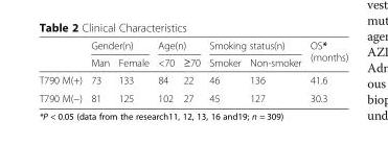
<table><thead><tr><td rowspan="2"></td><td colspan="2">Gender(n)</td><td colspan="2">Age(n)</td><td colspan="2">Smoking status(n)</td><td rowspan="2">OS* (months)</td></tr><tr><td>Man</td><td>Female</td><td>&lt;70</td><td>≥70</td><td>Smoker</td><td>Non-smoker</td></tr></thead><tbody><tr><td>T790 M(+)</td><td>73</td><td>133</td><td>84</td><td>22</td><td>46</td><td>136</td><td>41.6</td></tr><tr><td>T790 M(−)</td><td>81</td><td>125</td><td>102</td><td>27</td><td>45</td><td>127</td><td>30.3</td></tr></tbody></table>